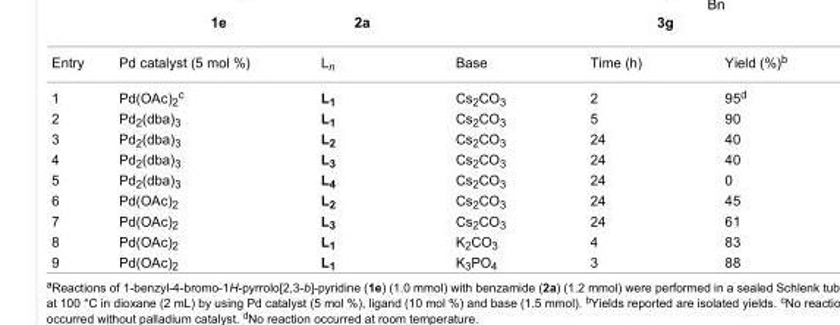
<table><tbody><tr><td>Entry</td><td>Pd catalyst (5 mol %)</td><td>L<sub>n</sub></td><td>Base</td><td>Time (h)</td><td>Yield (%)<sup>b</sup></td></tr><tr><td>1</td><td>Pd(OAc)<sub>2</sub><sup>c</sup></td><td>L<sub>1</sub></td><td>Cs<sub>2</sub>CO<sub>3</sub></td><td>2</td><td>95<sup>d</sup></td></tr><tr><td>2</td><td>Pd<sub>2</sub>(dba)<sub>3</sub></td><td>L<sub>1</sub></td><td>Cs<sub>2</sub>CO<sub>3</sub></td><td>5</td><td>90</td></tr><tr><td>3</td><td>Pd<sub>2</sub>(dba)<sub>3</sub></td><td>L<sub>2</sub></td><td>Cs<sub>2</sub>CO<sub>3</sub></td><td>24</td><td>40</td></tr><tr><td>4</td><td>Pd<sub>2</sub>(dba)<sub>3</sub></td><td>L<sub>3</sub></td><td>Cs<sub>2</sub>CO<sub>3</sub></td><td>24</td><td>40</td></tr><tr><td>5</td><td>Pd<sub>2</sub>(dba)<sub>3</sub></td><td>L<sub>4</sub></td><td>Cs<sub>2</sub>CO<sub>3</sub></td><td>24</td><td>0</td></tr><tr><td>6</td><td>Pd(OAc)<sub>2</sub></td><td>L<sub>2</sub></td><td>Cs<sub>2</sub>CO<sub>3</sub></td><td>24</td><td>45</td></tr><tr><td>7</td><td>Pd(OAc)<sub>2</sub></td><td>L<sub>3</sub></td><td>Cs<sub>2</sub>CO<sub>3</sub></td><td>24</td><td>61</td></tr><tr><td>8</td><td>Pd(OAc)<sub>2</sub></td><td>L<sub>1</sub></td><td>K<sub>2</sub>CO<sub>3</sub></td><td>4</td><td>83</td></tr><tr><td>9</td><td>Pd(OAc)<sub>2</sub></td><td>L<sub>1</sub></td><td>K<sub>3</sub>PO<sub>4</sub></td><td>3</td><td>88</td></tr></tbody></table>